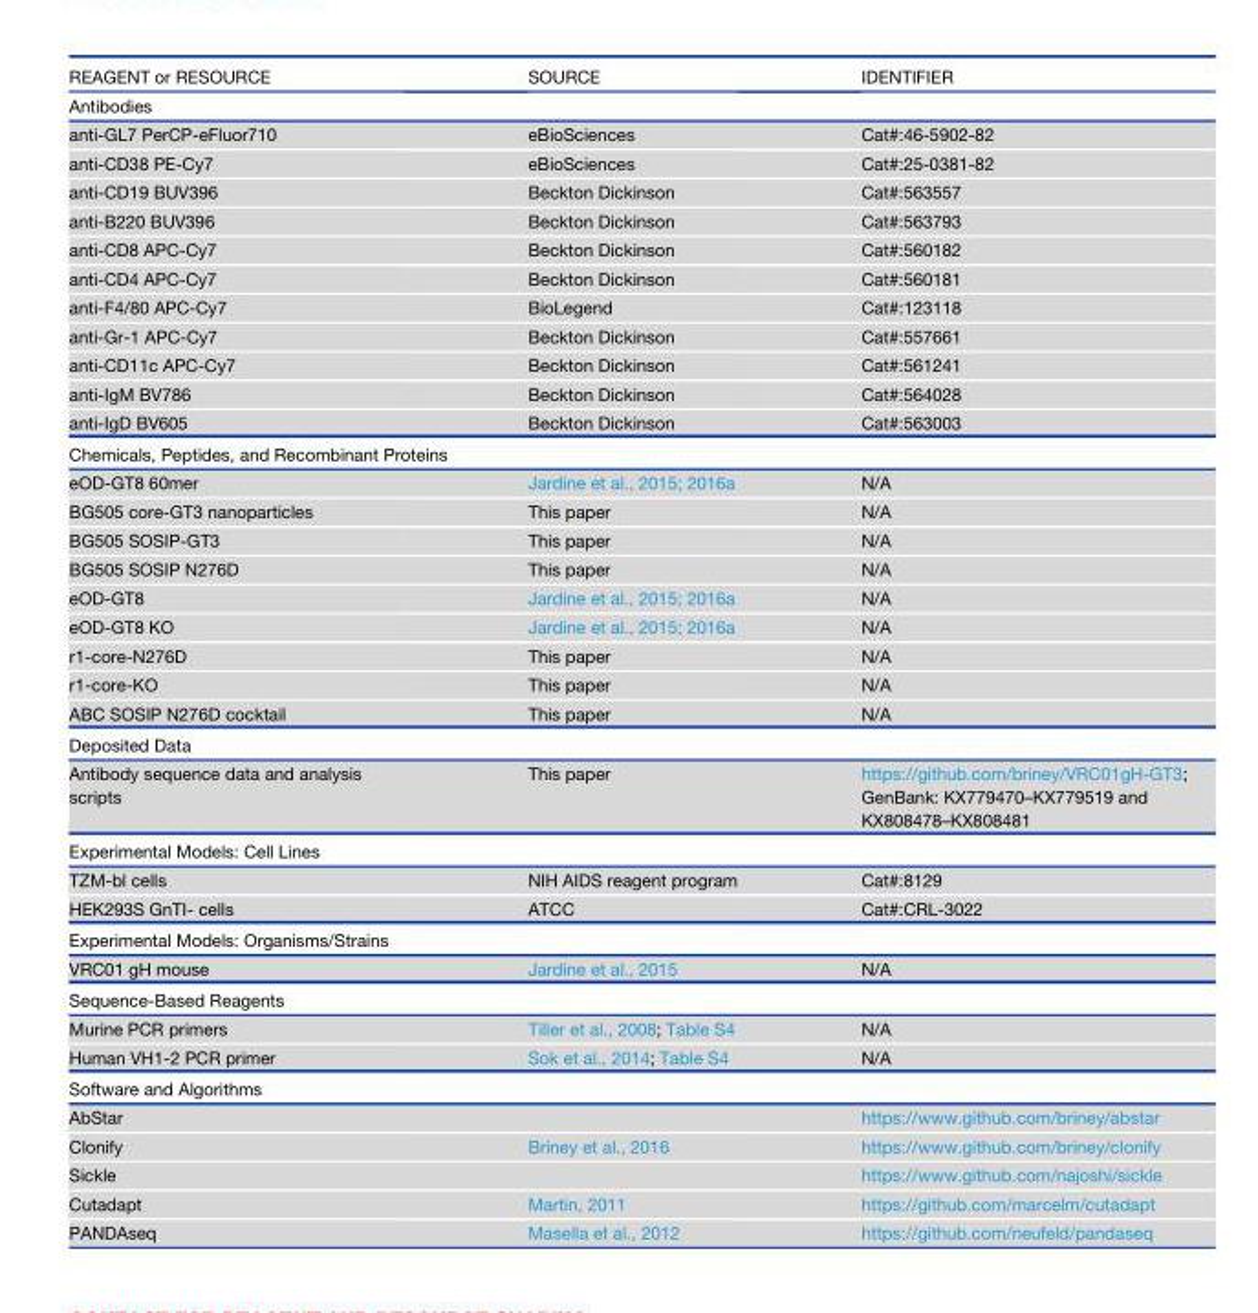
<table><thead><tr><td>REAGENT or RESOURCE</td><td>SOURCE</td><td>IDENTIFIER</td></tr></thead><tbody><tr><td colspan="3">Antibodies</td></tr><tr><td>anti-GL7 PerCP-eFluor710</td><td>eBioSciences</td><td>Cat#:46-5902-82</td></tr><tr><td>anti-CD38 PE-Cy7</td><td>eBioSciences</td><td>Cat#:25-0381-82</td></tr><tr><td>anti-CD19 BUV396</td><td>Beckton Dickinson</td><td>Cat#:563557</td></tr><tr><td>anti-B220 BUV396</td><td>Beckton Dickinson</td><td>Cat#:563793</td></tr><tr><td>anti-CD8 APC-Cy7</td><td>Beckton Dickinson</td><td>Cat#:560182</td></tr><tr><td>anti-CD4 APC-Cy7</td><td>Beckton Dickinson</td><td>Cat#:560181</td></tr><tr><td>anti-F4/80 APC-Cy7</td><td>BioLegend</td><td>Cat#:123118</td></tr><tr><td>anti-Gr-1 APC-Cy7</td><td>Beckton Dickinson</td><td>Cat#:557661</td></tr><tr><td>anti-CD11c APC-Cy7</td><td>Beckton Dickinson</td><td>Cat#:561241</td></tr><tr><td>anti-IgM BV786</td><td>Beckton Dickinson</td><td>Cat#:564028</td></tr><tr><td>anti-IgD BV605</td><td>Beckton Dickinson</td><td>Cat#:563003</td></tr><tr><td colspan="3">Chemicals, Peptides, and Recombinant Proteins</td></tr><tr><td>eOD-GT8 60mer</td><td>Jardine et al., 2015; 2016a</td><td>N/A</td></tr><tr><td>BG505 core-GT3 nanoparticles</td><td>This paper</td><td>N/A</td></tr><tr><td>BG505 SOSIP-GT3</td><td>This paper</td><td>N/A</td></tr><tr><td>BG505 SOSIP N276D</td><td>This paper</td><td>N/A</td></tr><tr><td>eOD-GT8</td><td>Jardine et al., 2015; 2016a</td><td>N/A</td></tr><tr><td>eOD-GT8 KO</td><td>Jardine et al., 2015; 2016a</td><td>N/A</td></tr><tr><td>r1-core-N276D</td><td>This paper</td><td>N/A</td></tr><tr><td>r1-core-KO</td><td>This paper</td><td>N/A</td></tr><tr><td>ABC SOSIP N276D cocktail</td><td>This paper</td><td>N/A</td></tr><tr><td colspan="3">Deposited Data</td></tr><tr><td>Antibody sequence data and analysis scripts</td><td>This paper</td><td>https://github.com/briney/VRC01gH-GT3; GenBank: KX779470–KX779519 and KX808478–KX808481</td></tr><tr><td colspan="3">Experimental Models: Cell Lines</td></tr><tr><td>TZM-bl cells</td><td>NIH AIDS reagent program</td><td>Cat#:8129</td></tr><tr><td>HEK293S GnTI- cells</td><td>ATCC</td><td>Cat#:CRL-3022</td></tr><tr><td colspan="3">Experimental Models: Organisms/Strains</td></tr><tr><td>VRC01 gH mouse</td><td>Jardine et al., 2015</td><td>N/A</td></tr><tr><td colspan="3">Sequence-Based Reagents</td></tr><tr><td>Murine PCR primers</td><td>Tiller et al., 2008; Table S4</td><td>N/A</td></tr><tr><td>Human VH1-2 PCR primer</td><td>Sok et al., 2014; Table S4</td><td>N/A</td></tr><tr><td colspan="3">Software and Algorithms</td></tr><tr><td>AbStar</td><td></td><td>https://www.github.com/briney/abstar</td></tr><tr><td>Clonify</td><td>Briney et al., 2016</td><td>https://www.github.com/briney/clonify</td></tr><tr><td>Sickle</td><td></td><td>https://www.github.com/najoshi/sickle</td></tr><tr><td>Cutadapt</td><td>Martin, 2011</td><td>https://github.com/marcelm/cutadapt</td></tr><tr><td>PANDAseq</td><td>Masella et al., 2012</td><td>https://github.com/neufeld/pandaseq</td></tr></tbody></table>